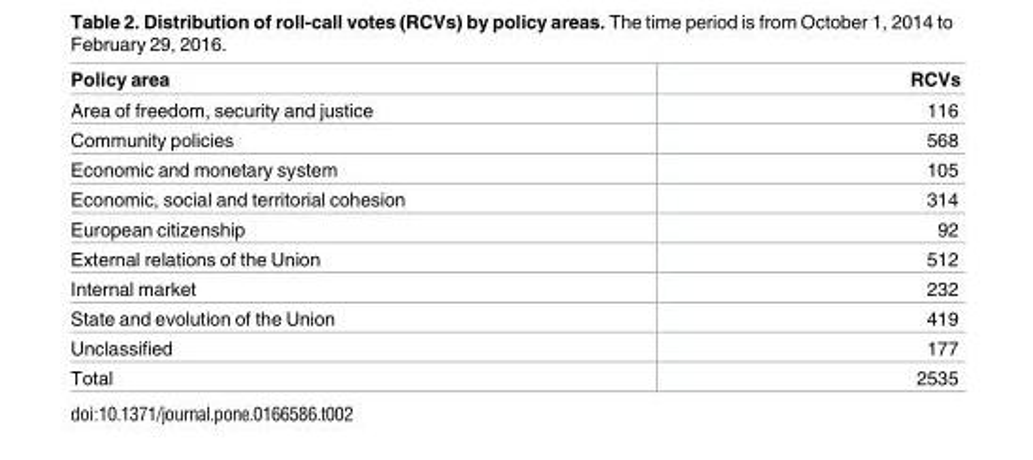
<table><thead><tr><td>Policy area</td><td>RCVs</td></tr></thead><tbody><tr><td>Area of freedom, security and justice</td><td>116</td></tr><tr><td>Community policies</td><td>568</td></tr><tr><td>Economic and monetary system</td><td>105</td></tr><tr><td>Economic, social and territorial cohesion</td><td>314</td></tr><tr><td>European citizenship</td><td>92</td></tr><tr><td>External relations of the Union</td><td>512</td></tr><tr><td>Internal market</td><td>232</td></tr><tr><td>State and evolution of the Union</td><td>419</td></tr><tr><td>Unclassified</td><td>177</td></tr><tr><td>Total</td><td>2535</td></tr></tbody></table>